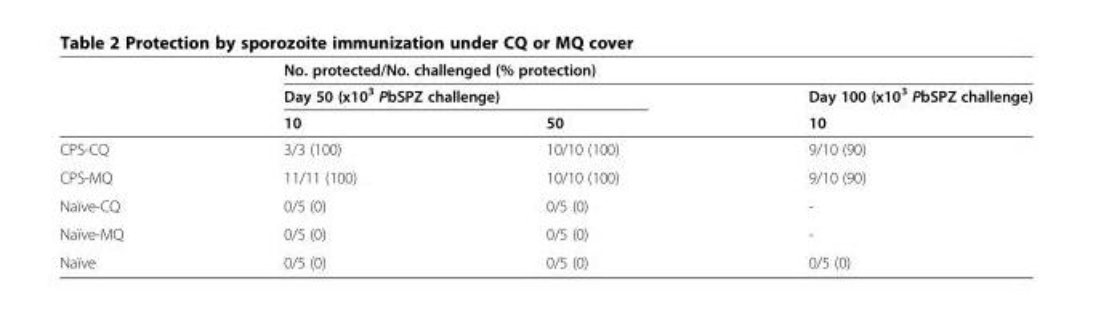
<table><thead><tr><td rowspan="3"></td><td colspan="3">No. protected/No. challenged (% protection)</td></tr><tr><td colspan="2">Day 50 (x10<sup>3</sup> PbSPZ challenge)</td><td rowspan="2">Day 100 (x10<sup>3</sup> PbSPZ challenge) 10</td></tr><tr><td>10</td><td>50</td></tr></thead><tbody><tr><td>CPS-CQ</td><td>3/3 (100)</td><td>10/10 (100)</td><td>9/10 (90)</td></tr><tr><td>CPS-MQ</td><td>11/11 (100)</td><td>10/10 (100)</td><td>9/10 (90)</td></tr><tr><td>Naïve-CQ</td><td>0/5 (0)</td><td>0/5 (0)</td><td>-</td></tr><tr><td>Naïve-MQ</td><td>0/5 (0)</td><td>0/5 (0)</td><td>-</td></tr><tr><td>Naïve</td><td>0/5 (0)</td><td>0/5 (0)</td><td>0/5 (0)</td></tr></tbody></table>